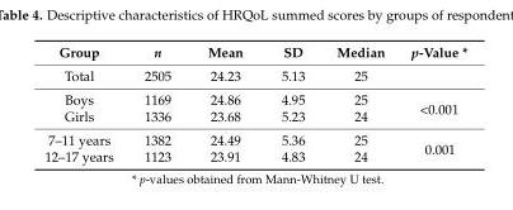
<table><thead><tr><td>Group</td><td>n</td><td>Mean</td><td>SD</td><td>Median</td><td>p-Value *</td></tr></thead><tbody><tr><td>Total</td><td>2505</td><td>24.23</td><td>5.13</td><td>25</td><td></td></tr><tr><td>Boys</td><td>1169</td><td>24.86</td><td>4.95</td><td>25</td><td rowspan="2">&lt;0.001</td></tr><tr><td>Girls</td><td>1336</td><td>23.68</td><td>5.23</td><td>24</td></tr><tr><td>7–11 years</td><td>1382</td><td>24.49</td><td>5.36</td><td>25</td><td rowspan="2">0.001</td></tr><tr><td>12–17 years</td><td>1123</td><td>23.91</td><td>4.83</td><td>24</td></tr></tbody></table>